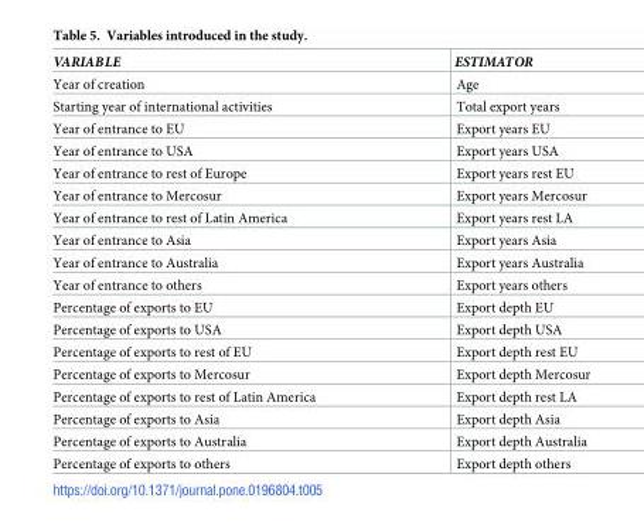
<table><thead><tr><td>VARIABLE</td><td>ESTIMATOR</td></tr></thead><tbody><tr><td>Year of creation</td><td>Age</td></tr><tr><td>Starting year of international activities</td><td>Total export years</td></tr><tr><td>Year of entrance to EU</td><td>Export years EU</td></tr><tr><td>Year of entrance to USA</td><td>Export years USA</td></tr><tr><td>Year of entrance to rest of Europe</td><td>Export years rest EU</td></tr><tr><td>Year of entrance to Mercosur</td><td>Export years Mercosur</td></tr><tr><td>Year of entrance to rest of Latin America</td><td>Export years rest LA</td></tr><tr><td>Year of entrance to Asia</td><td>Export years Asia</td></tr><tr><td>Year of entrance to Australia</td><td>Export years Australia</td></tr><tr><td>Year of entrance to others</td><td>Export years others</td></tr><tr><td>Percentage of exports to EU</td><td>Export depth EU</td></tr><tr><td>Percentage of exports to USA</td><td>Export depth USA</td></tr><tr><td>Percentage of exports to rest of EU</td><td>Export depth rest EU</td></tr><tr><td>Percentage of exports to Mercosur</td><td>Export depth Mercosur</td></tr><tr><td>Percentage of exports to rest of Latin America</td><td>Export depth rest LA</td></tr><tr><td>Percentage of exports to Asia</td><td>Export depth Asia</td></tr><tr><td>Percentage of exports to Australia</td><td>Export depth Australia</td></tr><tr><td>Percentage of exports to others</td><td>Export depth others</td></tr></tbody></table>